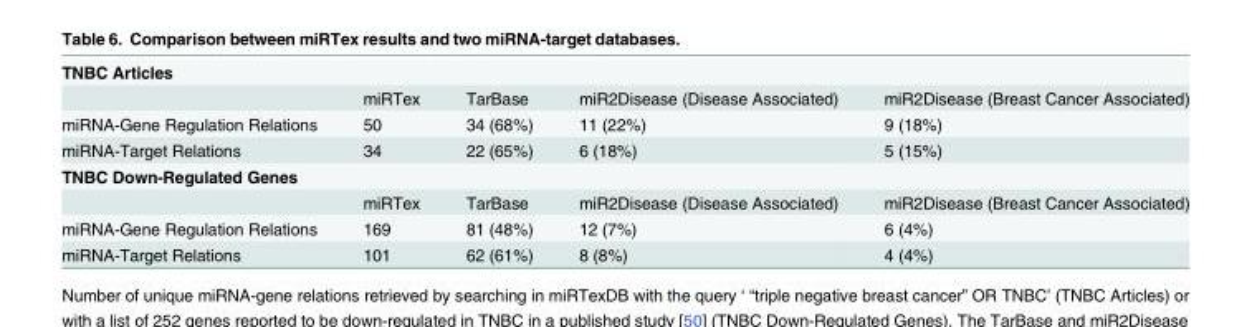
<table><tbody><tr><td colspan="5">TNBC Articles</td></tr><tr><td></td><td>miRTex</td><td>TarBase</td><td>miR2Disease (Disease Associated)</td><td>miR2Disease (Breast Cancer Associated)</td></tr><tr><td>miRNA-Gene Regulation Relations</td><td>50</td><td>34 (68%)</td><td>11 (22%)</td><td>9 (18%)</td></tr><tr><td>miRNA-Target Relations</td><td>34</td><td>22 (65%)</td><td>6 (18%)</td><td>5 (15%)</td></tr><tr><td colspan="5">TNBC Down-Regulated Genes</td></tr><tr><td></td><td>miRTex</td><td>TarBase</td><td>miR2Disease (Disease Associated)</td><td>miR2Disease (Breast Cancer Associated)</td></tr><tr><td>miRNA-Gene Regulation Relations</td><td>169</td><td>81 (48%)</td><td>12 (7%)</td><td>6 (4%)</td></tr><tr><td>miRNA-Target Relations</td><td>101</td><td>62 (61%)</td><td>8 (8%)</td><td>4 (4%)</td></tr></tbody></table>